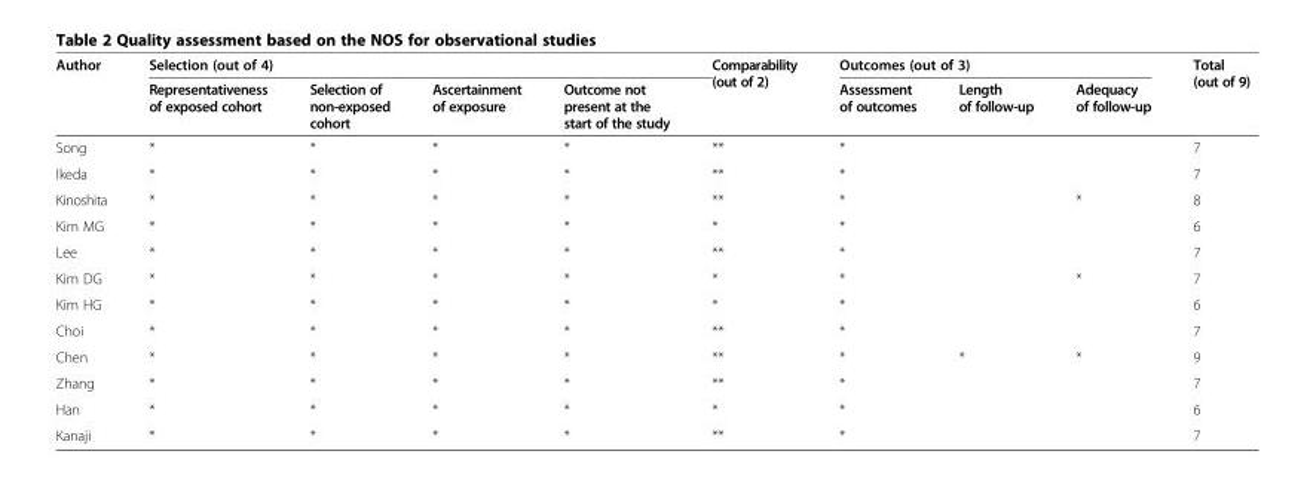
<table><thead><tr><td rowspan="2">Author</td><td colspan="4">Selection (out of 4)</td><td rowspan="2">Comparability (out of 2)</td><td colspan="3">Outcomes (out of 3)</td><td rowspan="2">Total (out of 9)</td></tr><tr><td>Representativeness of exposed cohort</td><td>Selection of non-exposed cohort</td><td>Ascertainment of exposure</td><td>Outcome not present at the start of the study</td><td>Assessment of outcomes</td><td>Length of follow-up</td><td>Adequacy of follow-up</td></tr></thead><tbody><tr><td>Song</td><td>*</td><td>*</td><td>*</td><td>*</td><td>**</td><td>*</td><td></td><td></td><td>7</td></tr><tr><td>Ikeda</td><td>*</td><td>*</td><td>*</td><td>*</td><td>**</td><td>*</td><td></td><td></td><td>7</td></tr><tr><td>Kinoshita</td><td>*</td><td>*</td><td>*</td><td>*</td><td>**</td><td>*</td><td></td><td>*</td><td>8</td></tr><tr><td>Kim MG</td><td>*</td><td>*</td><td>*</td><td>*</td><td>*</td><td>*</td><td></td><td></td><td>6</td></tr><tr><td>Lee</td><td>*</td><td>*</td><td>*</td><td>*</td><td>**</td><td>*</td><td></td><td></td><td>7</td></tr><tr><td>Kim DG</td><td>*</td><td>*</td><td>*</td><td>*</td><td>*</td><td>*</td><td></td><td>*</td><td>7</td></tr><tr><td>Kim HG</td><td>*</td><td>*</td><td>*</td><td>*</td><td>*</td><td>*</td><td></td><td></td><td>6</td></tr><tr><td>Choi</td><td>*</td><td>*</td><td>*</td><td>*</td><td>**</td><td>*</td><td></td><td></td><td>7</td></tr><tr><td>Chen</td><td>*</td><td>*</td><td>*</td><td>*</td><td>**</td><td>*</td><td>*</td><td>*</td><td>9</td></tr><tr><td>Zhang</td><td>*</td><td>*</td><td>*</td><td>*</td><td>**</td><td>*</td><td></td><td></td><td>7</td></tr><tr><td>Han</td><td>*</td><td>*</td><td>*</td><td>*</td><td>*</td><td>*</td><td></td><td></td><td>6</td></tr><tr><td>Kanaji</td><td>*</td><td>*</td><td>*</td><td>*</td><td>**</td><td>*</td><td></td><td></td><td>7</td></tr></tbody></table>